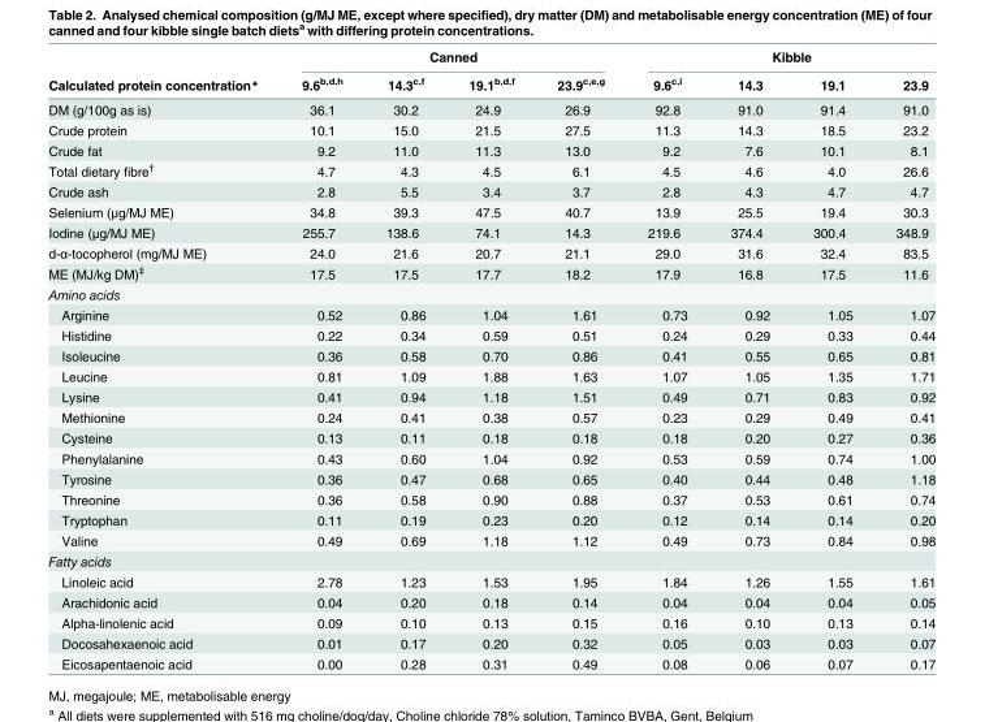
<table><thead><tr><td rowspan="2">Calculated protein concentration*</td><td colspan="4">Canned</td><td colspan="4">Kibble</td></tr><tr><td>9.6<sup>b,d,h</sup></td><td>14.3<sup>c,f</sup></td><td>19.1<sup>b,d,f</sup></td><td>23.9<sup>c,e,g</sup></td><td>9.6<sup>c,i</sup></td><td>14.3</td><td>19.1</td><td>23.9</td></tr></thead><tbody><tr><td>DM (g/100g as is)</td><td>36.1</td><td>30.2</td><td>24.9</td><td>26.9</td><td>92.8</td><td>91.0</td><td>91.4</td><td>91.0</td></tr><tr><td>Crude protein</td><td>10.1</td><td>15.0</td><td>21.5</td><td>27.5</td><td>11.3</td><td>14.3</td><td>18.5</td><td>23.2</td></tr><tr><td>Crude fat</td><td>9.2</td><td>11.0</td><td>11.3</td><td>13.0</td><td>9.2</td><td>7.6</td><td>10.1</td><td>8.1</td></tr><tr><td>Total dietary fibre<sup>†</sup></td><td>4.7</td><td>4.3</td><td>4.5</td><td>6.1</td><td>4.5</td><td>4.6</td><td>4.0</td><td>26.6</td></tr><tr><td>Crude ash</td><td>2.8</td><td>5.5</td><td>3.4</td><td>3.7</td><td>2.8</td><td>4.3</td><td>4.7</td><td>4.7</td></tr><tr><td>Selenium (μg/MJ ME)</td><td>34.8</td><td>39.3</td><td>47.5</td><td>40.7</td><td>13.9</td><td>25.5</td><td>19.4</td><td>30.3</td></tr><tr><td>Iodine (μg/MJ ME)</td><td>255.7</td><td>138.6</td><td>74.1</td><td>14.3</td><td>219.6</td><td>374.4</td><td>300.4</td><td>348.9</td></tr><tr><td>d-α-tocopherol (mg/MJ ME)</td><td>24.0</td><td>21.6</td><td>20.7</td><td>21.1</td><td>29.0</td><td>31.6</td><td>32.4</td><td>83.5</td></tr><tr><td>ME (MJ/kg DM)<sup>‡</sup></td><td>17.5</td><td>17.5</td><td>17.7</td><td>18.2</td><td>17.9</td><td>16.8</td><td>17.5</td><td>11.6</td></tr><tr><td colspan="9">Amino acids</td></tr><tr><td>Arginine</td><td>0.52</td><td>0.86</td><td>1.04</td><td>1.61</td><td>0.73</td><td>0.92</td><td>1.05</td><td>1.07</td></tr><tr><td>Histidine</td><td>0.22</td><td>0.34</td><td>0.59</td><td>0.51</td><td>0.24</td><td>0.29</td><td>0.33</td><td>0.44</td></tr><tr><td>Isoleucine</td><td>0.36</td><td>0.58</td><td>0.70</td><td>0.86</td><td>0.41</td><td>0.55</td><td>0.65</td><td>0.81</td></tr><tr><td>Leucine</td><td>0.81</td><td>1.09</td><td>1.88</td><td>1.63</td><td>1.07</td><td>1.05</td><td>1.35</td><td>1.71</td></tr><tr><td>Lysine</td><td>0.41</td><td>0.94</td><td>1.18</td><td>1.51</td><td>0.49</td><td>0.71</td><td>0.83</td><td>0.92</td></tr><tr><td>Methionine</td><td>0.24</td><td>0.41</td><td>0.38</td><td>0.57</td><td>0.23</td><td>0.29</td><td>0.49</td><td>0.41</td></tr><tr><td>Cysteine</td><td>0.13</td><td>0.11</td><td>0.18</td><td>0.18</td><td>0.18</td><td>0.20</td><td>0.27</td><td>0.36</td></tr><tr><td>Phenylalanine</td><td>0.43</td><td>0.60</td><td>1.04</td><td>0.92</td><td>0.53</td><td>0.59</td><td>0.74</td><td>1.00</td></tr><tr><td>Tyrosine</td><td>0.36</td><td>0.47</td><td>0.68</td><td>0.65</td><td>0.40</td><td>0.44</td><td>0.48</td><td>1.18</td></tr><tr><td>Threonine</td><td>0.36</td><td>0.58</td><td>0.90</td><td>0.88</td><td>0.37</td><td>0.53</td><td>0.61</td><td>0.74</td></tr><tr><td>Tryptophan</td><td>0.11</td><td>0.19</td><td>0.23</td><td>0.20</td><td>0.12</td><td>0.14</td><td>0.14</td><td>0.20</td></tr><tr><td>Valine</td><td>0.49</td><td>0.69</td><td>1.18</td><td>1.12</td><td>0.49</td><td>0.73</td><td>0.84</td><td>0.98</td></tr><tr><td colspan="9">Fatty acids</td></tr><tr><td>Linoleic acid</td><td>2.78</td><td>1.23</td><td>1.53</td><td>1.95</td><td>1.84</td><td>1.26</td><td>1.55</td><td>1.61</td></tr><tr><td>Arachidonic acid</td><td>0.04</td><td>0.20</td><td>0.18</td><td>0.14</td><td>0.04</td><td>0.04</td><td>0.04</td><td>0.05</td></tr><tr><td>Alpha-linolenic acid</td><td>0.09</td><td>0.10</td><td>0.13</td><td>0.15</td><td>0.16</td><td>0.10</td><td>0.13</td><td>0.14</td></tr><tr><td>Docosahexaenoic acid</td><td>0.01</td><td>0.17</td><td>0.20</td><td>0.32</td><td>0.05</td><td>0.03</td><td>0.03</td><td>0.07</td></tr><tr><td>Eicosapentaenoic acid</td><td>0.00</td><td>0.28</td><td>0.31</td><td>0.49</td><td>0.08</td><td>0.06</td><td>0.07</td><td>0.17</td></tr></tbody></table>